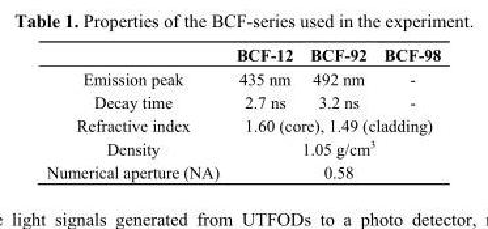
<table><thead><tr><td></td><td>BCF-12</td><td>BCF-92</td><td>BCF-98</td></tr></thead><tbody><tr><td>Emission peak</td><td>435 nm</td><td>492 nm</td><td>-</td></tr><tr><td>Decay time</td><td>2.7 ns</td><td>3.2 ns</td><td>-</td></tr><tr><td>Refractive index</td><td colspan="3">1.60 (core), 1.49 (cladding)</td></tr><tr><td>Density</td><td colspan="3">1.05 g/cm<sup>3</sup></td></tr><tr><td>Numerical aperture (NA)</td><td colspan="3">0.58</td></tr></tbody></table>